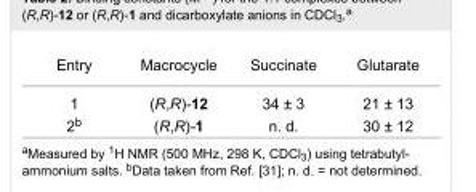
<table><tbody><tr><td>Entry</td><td>Macrocycle</td><td>Succinate</td><td>Glutarate</td></tr><tr><td>1</td><td>(R,R)-12</td><td>34 ± 3</td><td>21 ± 13</td></tr><tr><td>2<sup>b</sup></td><td>(R,R)-1</td><td>n. d.</td><td>30 ± 12</td></tr></tbody></table>